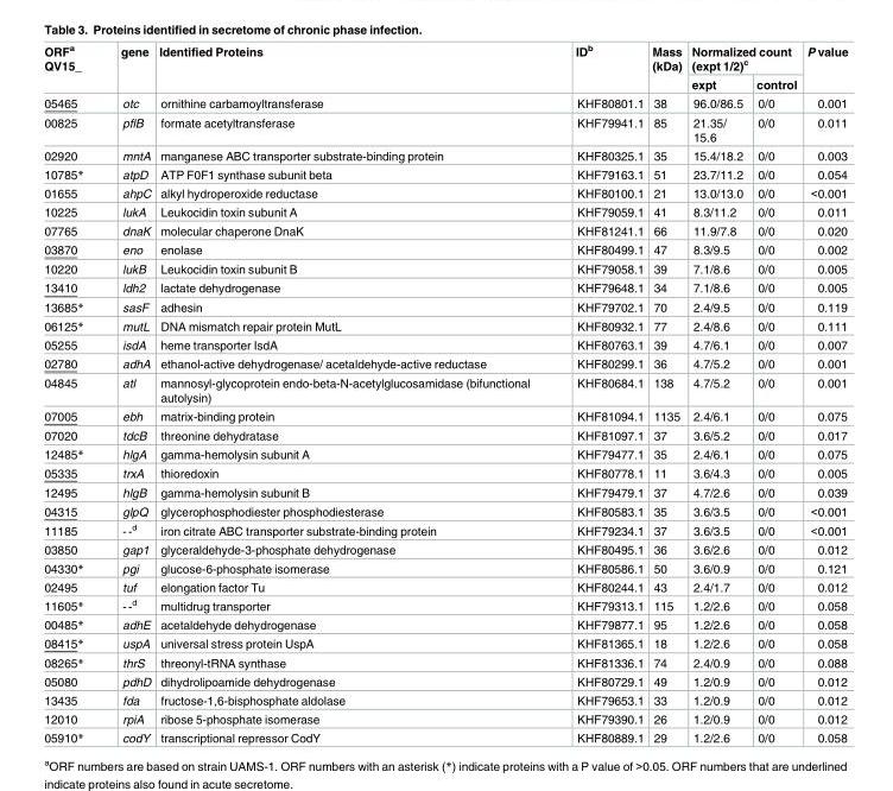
<table><thead><tr><td rowspan="2">ORF<sup>a</sup> QV15_</td><td rowspan="2">gene</td><td rowspan="2">Identified Proteins</td><td rowspan="2">ID<sup>b</sup></td><td rowspan="2">Mass (kDa)</td><td colspan="2">Normalized count (expt 1/2)<sup>c</sup></td><td rowspan="2">P value</td></tr><tr><td>expt</td><td>control</td></tr></thead><tbody><tr><td>05465</td><td>otc</td><td>ornithine carbamoyltransferase</td><td>KHF80801.1</td><td>38</td><td>96.0/86.5</td><td>0/0</td><td>0.001</td></tr><tr><td>00825</td><td>pflB</td><td>formate acetyltransferase</td><td>KHF79941.1</td><td>85</td><td>21.35/ 15.6</td><td>0/0</td><td>0.011</td></tr><tr><td>02920</td><td>mntA</td><td>manganese ABC transporter substrate-binding protein</td><td>KHF80325.1</td><td>35</td><td>15.4/18.2</td><td>0/0</td><td>0.003</td></tr><tr><td>10785*</td><td>atpD</td><td>ATP F0F1 synthase subunit beta</td><td>KHF79163.1</td><td>51</td><td>23.7/11.2</td><td>0/0</td><td>0.054</td></tr><tr><td>01655</td><td>ahpC</td><td>alkyl hydroperoxide reductase</td><td>KHF80100.1</td><td>21</td><td>13.0/13.0</td><td>0/0</td><td>&lt;0.001</td></tr><tr><td>10225</td><td>lukA</td><td>Leukocidin toxin subunit A</td><td>KHF79059.1</td><td>41</td><td>8.3/11.2</td><td>0/0</td><td>0.011</td></tr><tr><td>07765</td><td>dnaK</td><td>molecular chaperone DnaK</td><td>KHF81241.1</td><td>66</td><td>11.9/7.8</td><td>0/0</td><td>0.020</td></tr><tr><td>03870</td><td>eno</td><td>enolase</td><td>KHF80499.1</td><td>47</td><td>8.3/9.5</td><td>0/0</td><td>0.002</td></tr><tr><td>10220</td><td>lukB</td><td>Leukocidin toxin subunit B</td><td>KHF79058.1</td><td>39</td><td>7.1/8.6</td><td>0/0</td><td>0.005</td></tr><tr><td>13410</td><td>ldh2</td><td>lactate dehydrogenase</td><td>KHF79648.1</td><td>34</td><td>7.1/8.6</td><td>0/0</td><td>0.005</td></tr><tr><td>13685*</td><td>sasF</td><td>adhesin</td><td>KHF79702.1</td><td>70</td><td>2.4/9.5</td><td>0/0</td><td>0.119</td></tr><tr><td>06125*</td><td>mutL</td><td>DNA mismatch repair protein MutL</td><td>KHF80932.1</td><td>77</td><td>2.4/8.6</td><td>0/0</td><td>0.111</td></tr><tr><td>05255</td><td>isdA</td><td>heme transporter IsdA</td><td>KHF80763.1</td><td>39</td><td>4.7/6.1</td><td>0/0</td><td>0.007</td></tr><tr><td>02780</td><td>adhA</td><td>ethanol-active dehydrogenase/ acetaldehyde-active reductase</td><td>KHF80299.1</td><td>36</td><td>4.7/5.2</td><td>0/0</td><td>0.001</td></tr><tr><td>04845</td><td>atl</td><td>mannosyl-glycoprotein endo-beta-N-acetylglucosamidase (bifunctional autolysin)</td><td>KHF80684.1</td><td>138</td><td>4.7/5.2</td><td>0/0</td><td>0.001</td></tr><tr><td>07005</td><td>ebh</td><td>matrix-binding protein</td><td>KHF81094.1</td><td>1135</td><td>2.4/6.1</td><td>0/0</td><td>0.075</td></tr><tr><td>07020</td><td>tdcB</td><td>threonine dehydratase</td><td>KHF81097.1</td><td>37</td><td>3.6/5.2</td><td>0/0</td><td>0.017</td></tr><tr><td>12485*</td><td>hlgA</td><td>gamma-hemolysin subunit A</td><td>KHF79477.1</td><td>35</td><td>2.4/6.1</td><td>0/0</td><td>0.075</td></tr><tr><td>05335</td><td>trxA</td><td>thioredoxin</td><td>KHF80778.1</td><td>11</td><td>3.6/4.3</td><td>0/0</td><td>0.005</td></tr><tr><td>12495</td><td>hlgB</td><td>gamma-hemolysin subunit B</td><td>KHF79479.1</td><td>37</td><td>4.7/2.6</td><td>0/0</td><td>0.039</td></tr><tr><td>04315</td><td>glpQ</td><td>glycerophosphodiester phosphodiesterase</td><td>KHF80583.1</td><td>35</td><td>3.6/3.5</td><td>0/0</td><td>&lt;0.001</td></tr><tr><td>11185</td><td>--<sup>d</sup></td><td>iron citrate ABC transporter substrate-binding protein</td><td>KHF79234.1</td><td>37</td><td>3.6/3.5</td><td>0/0</td><td>&lt;0.001</td></tr><tr><td>03850</td><td>gap1</td><td>glyceraldehyde-3-phosphate dehydrogenase</td><td>KHF80495.1</td><td>36</td><td>3.6/2.6</td><td>0/0</td><td>0.012</td></tr><tr><td>04330*</td><td>pgi</td><td>glucose-6-phosphate isomerase</td><td>KHF80586.1</td><td>50</td><td>3.6/0.9</td><td>0/0</td><td>0.121</td></tr><tr><td>02495</td><td>tuf</td><td>elongation factor Tu</td><td>KHF80244.1</td><td>43</td><td>2.4/1.7</td><td>0/0</td><td>0.012</td></tr><tr><td>11605*</td><td>--<sup>d</sup></td><td>multidrug transporter</td><td>KHF79313.1</td><td>115</td><td>1.2/2.6</td><td>0/0</td><td>0.058</td></tr><tr><td>00485*</td><td>adhE</td><td>acetaldehyde dehydrogenase</td><td>KHF79877.1</td><td>95</td><td>1.2/2.6</td><td>0/0</td><td>0.058</td></tr><tr><td>08415*</td><td>uspA</td><td>universal stress protein UspA</td><td>KHF81365.1</td><td>18</td><td>1.2/2.6</td><td>0/0</td><td>0.058</td></tr><tr><td>08265*</td><td>thrS</td><td>threonyl-tRNA synthase</td><td>KHF81336.1</td><td>74</td><td>2.4/0.9</td><td>0/0</td><td>0.088</td></tr><tr><td>05080</td><td>pdhD</td><td>dihydrolipoamide dehydrogenase</td><td>KHF80729.1</td><td>49</td><td>1.2/0.9</td><td>0/0</td><td>0.012</td></tr><tr><td>13435</td><td>fda</td><td>fructose-1,6-bisphosphate aldolase</td><td>KHF79653.1</td><td>33</td><td>1.2/0.9</td><td>0/0</td><td>0.012</td></tr><tr><td>12010</td><td>rpiA</td><td>ribose 5-phosphate isomerase</td><td>KHF79390.1</td><td>26</td><td>1.2/0.9</td><td>0/0</td><td>0.012</td></tr><tr><td>05910*</td><td>codY</td><td>transcriptional repressor CodY</td><td>KHF80889.1</td><td>29</td><td>1.2/2.6</td><td>0/0</td><td>0.058</td></tr></tbody></table>